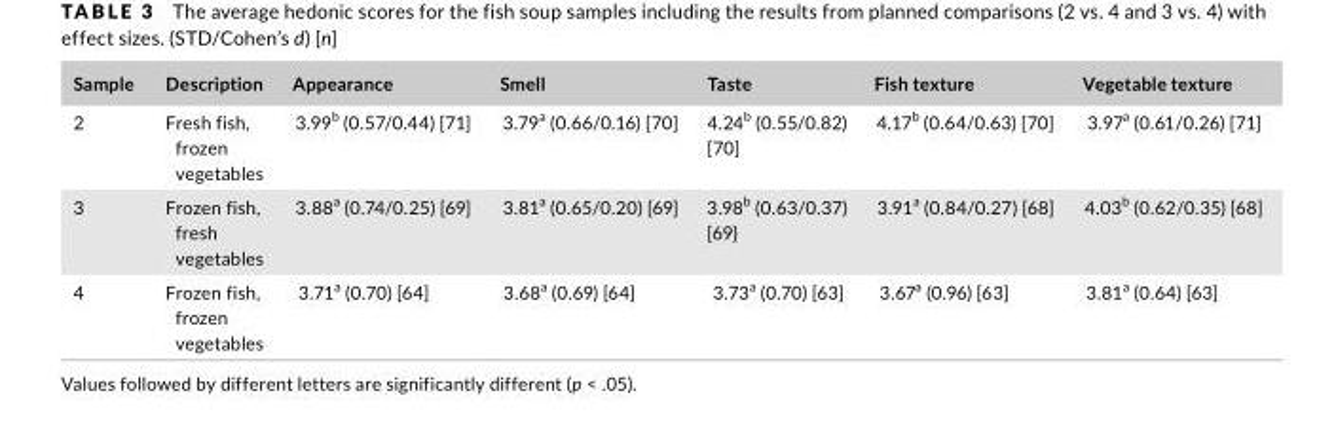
<table><thead><tr><td>Sample</td><td>Description</td><td>Appearance</td><td>Smell</td><td>Taste</td><td>Fish texture</td><td>Vegetable texture</td></tr></thead><tbody><tr><td>2</td><td>Fresh fish, frozen vegetables</td><td>3.99<sup>b</sup> (0.57/0.44) [71]</td><td>3.79<sup>a</sup> (0.66/0.16) [70]</td><td>4.24<sup>b</sup> (0.55/0.82) [70]</td><td>4.17<sup>b</sup> (0.64/0.63) [70]</td><td>3.97<sup>a</sup> (0.61/0.26) [71]</td></tr><tr><td>3</td><td>Frozen fish, fresh vegetables</td><td>3.88<sup>a</sup> (0.74/0.25) [69]</td><td>3.81<sup>a</sup> (0.65/0.20) [69]</td><td>3.98<sup>b</sup> (0.63/0.37) [69}</td><td>3.91<sup>a</sup> (0.84/0.27) [68]</td><td>4.03<sup>b</sup> (0.62/0.35) [68]</td></tr><tr><td>4</td><td>Frozen fish, frozen vegetables</td><td>3.71<sup>a</sup> (0.70) [64]</td><td>3.68<sup>a</sup> (0.69) [64]</td><td>3.73<sup>a</sup> (0.70) [63]</td><td>3.67<sup>a</sup> (0.96) [63]</td><td>3.81<sup>a</sup> (0.64) [63]</td></tr></tbody></table>